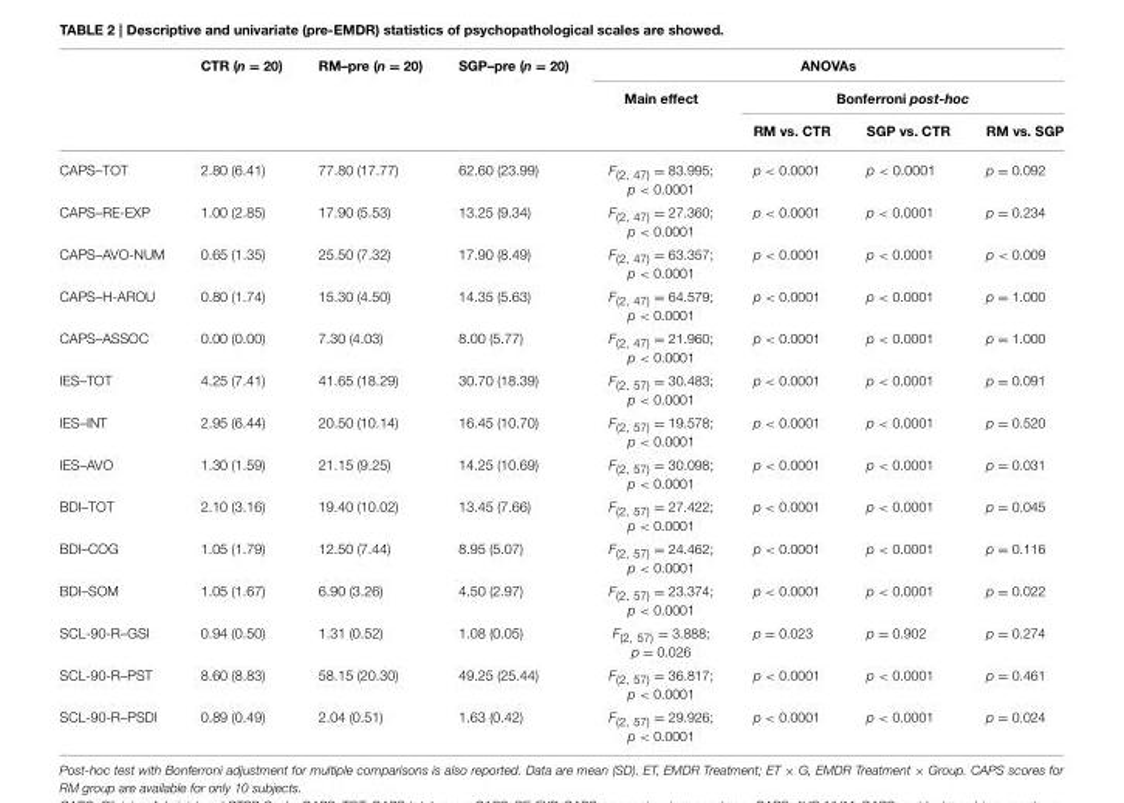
<table><thead><tr><td rowspan="3"></td><td rowspan="3">CTR (n = 20)</td><td rowspan="3">RM–pre (n = 20)</td><td rowspan="3">SGP–pre (n = 20)</td><td colspan="4">ANOVAs</td></tr><tr><td rowspan="2">Main effect</td><td colspan="3">Bonferroni post-hoc</td></tr><tr><td>RM vs. CTR</td><td>SGP vs. CTR</td><td>RM vs. SGP</td></tr></thead><tbody><tr><td>CAPS–TOT</td><td>2.80 (6.41)</td><td>77.80 (17.77)</td><td>62.60 (23.99)</td><td>F<sub>(2, 47)</sub> = 83.995; p &lt; 0.0001</td><td>p &lt; 0.0001</td><td>p &lt; 0.0001</td><td>p = 0.092</td></tr><tr><td>CAPS–RE-EXP</td><td>1.00 (2.85)</td><td>17.90 (5.53)</td><td>13.25 (9.34)</td><td>F<sub>(2, 47)</sub> = 27.360; p &lt; 0.0001</td><td>p &lt; 0.0001</td><td>p &lt; 0.0001</td><td>p = 0.234</td></tr><tr><td>CAPS–AVO-NUM</td><td>0.65 (1.35)</td><td>25.50 (7.32)</td><td>17.90 (8.49)</td><td>F<sub>(2, 47)</sub> = 63.357; p &lt; 0.0001</td><td>p &lt; 0.0001</td><td>p &lt; 0.0001</td><td>p &lt; 0.009</td></tr><tr><td>CAPS–H-AROU</td><td>0.80 (1.74)</td><td>15.30 (4.50)</td><td>14.35 (5.63)</td><td>F<sub>(2, 47)</sub> = 64.579; p &lt; 0.0001</td><td>p &lt; 0.0001</td><td>p &lt; 0.0001</td><td>p = 1.000</td></tr><tr><td>CAPS–ASSOC</td><td>0.00 (0.00)</td><td>7.30 (4.03)</td><td>8.00 (5.77)</td><td>F<sub>(2, 47)</sub> = 21.960; p &lt; 0.0001</td><td>p &lt; 0.0001</td><td>p &lt; 0.0001</td><td>p = 1.000</td></tr><tr><td>IES–TOT</td><td>4.25 (7.41)</td><td>41.65 (18.29)</td><td>30.70 (18.39)</td><td>F<sub>(2, 57)</sub> = 30.483; p &lt; 0.0001</td><td>p &lt; 0.0001</td><td>p &lt; 0.0001</td><td>p = 0.091</td></tr><tr><td>IES–INT</td><td>2.95 (6.44)</td><td>20.50 (10.14)</td><td>16.45 (10.70)</td><td>F<sub>(2, 57)</sub> = 19.578; p &lt; 0.0001</td><td>p &lt; 0.0001</td><td>p &lt; 0.0001</td><td>p = 0.520</td></tr><tr><td>IES–AVO</td><td>1.30 (1.59)</td><td>21.15 (9.25)</td><td>14.25 (10.69)</td><td>F<sub>(2, 57)</sub> = 30.098; p &lt; 0.0001</td><td>p &lt; 0.0001</td><td>p &lt; 0.0001</td><td>p = 0.031</td></tr><tr><td>BDI–TOT</td><td>2.10 (3.16)</td><td>19.40 (10.02)</td><td>13.45 (7.66)</td><td>F<sub>(2, 57)</sub> = 27.422; p &lt; 0.0001</td><td>p &lt; 0.0001</td><td>p &lt; 0.0001</td><td>p = 0.045</td></tr><tr><td>BDI–COG</td><td>1.05 (1.79)</td><td>12.50 (7.44)</td><td>8.95 (5.07)</td><td>F<sub>(2, 57)</sub> = 24.462; p &lt; 0.0001</td><td>p &lt; 0.0001</td><td>p &lt; 0.0001</td><td>p = 0.116</td></tr><tr><td>BDI–SOM</td><td>1.05 (1.67)</td><td>6.90 (3.26)</td><td>4.50 (2.97)</td><td>F<sub>(2, 57)</sub> = 23.374; p &lt; 0.0001</td><td>p &lt; 0.0001</td><td>p &lt; 0.0001</td><td>p = 0.022</td></tr><tr><td>SCL-90-R–GSI</td><td>0.94 (0.50)</td><td>1.31 (0.52)</td><td>1.08 (0.05)</td><td>F<sub>(2, 57)</sub> = 3.888; p = 0.026</td><td>p = 0.023</td><td>p = 0.902</td><td>p = 0.274</td></tr><tr><td>SCL-90-R–PST</td><td>8.60 (8.83)</td><td>58.15 (20.30)</td><td>49.25 (25.44)</td><td>F<sub>(2, 57)</sub> = 36.817; p &lt; 0.0001</td><td>p &lt; 0.0001</td><td>p &lt; 0.0001</td><td>p = 0.461</td></tr><tr><td>SCL-90-R–PSDI</td><td>0.89 (0.49)</td><td>2.04 (0.51)</td><td>1.63 (0.42)</td><td>F<sub>(2, 57)</sub> = 29.926; p &lt; 0.0001</td><td>p &lt; 0.0001</td><td>p &lt; 0.0001</td><td>p = 0.024</td></tr></tbody></table>